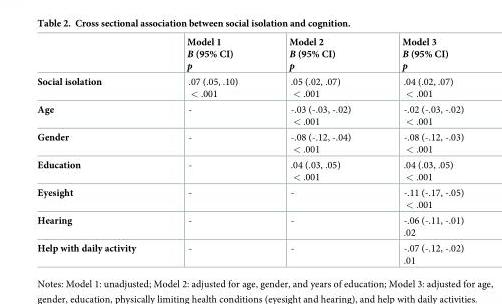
<table><thead><tr><td></td><td>Model 1 B (95% CI) p</td><td>Model 2 B (95% CI) p</td><td>Model 3 B (95% CI) p</td></tr></thead><tbody><tr><td>Social isolation</td><td>.07 (.05, .10) &lt; .001</td><td>.05 (.02, .07) &lt; .001</td><td>.04 (.02, .07) &lt; .001</td></tr><tr><td>Age</td><td>-</td><td>-.03 (-.03, -.02) &lt; .001</td><td>-.02 (-.03, -.02) &lt; .001</td></tr><tr><td>Gender</td><td>-</td><td>-.08 (-.12, -.04) &lt; .001</td><td>-.08 (-.12, -.03) &lt; .001</td></tr><tr><td>Education</td><td>-</td><td>.04 (.03, .05) &lt; .001</td><td>.04 (.03, .05) &lt; .001</td></tr><tr><td>Eyesight</td><td>-</td><td>-</td><td>-.11 (-.17, -.05) &lt; .001</td></tr><tr><td>Hearing</td><td>-</td><td>-</td><td>-.06 (-.11, -.01) .02</td></tr><tr><td>Help with daily activity</td><td>-</td><td>-</td><td>-.07 (-.12, -.02) .01</td></tr></tbody></table>